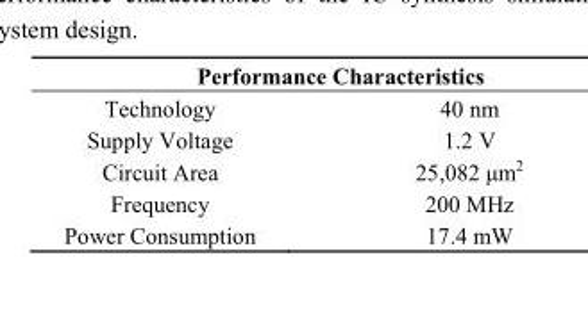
<table><thead><tr><td colspan="2">Performance Characteristics</td></tr><tr><td>Technology</td><td>40 nm</td></tr></thead><tbody><tr><td>Supply Voltage</td><td>1.2 V</td></tr><tr><td>Circuit Area</td><td>25,082 μm<sup>2</sup></td></tr><tr><td>Frequency</td><td>200 MHz</td></tr><tr><td>Power Consumption</td><td>17.4 mW</td></tr></tbody></table>